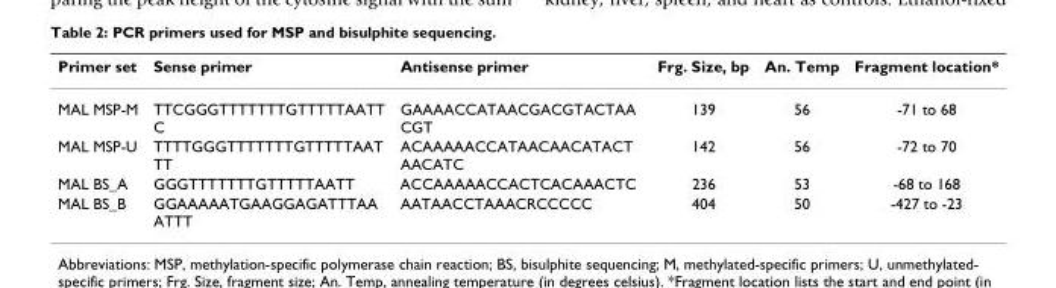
<table><thead><tr><td>Primer set</td><td>Sense primer</td><td>Antisense primer</td><td>Frg. Size, bp</td><td>An. Temp</td><td>Fragment location*</td></tr></thead><tbody><tr><td>MAL MSP-M</td><td>TTCGGGTTTTTTTGTTTTTAATT C</td><td>GAAAACCATAACGACGTACTAA CGT</td><td>139</td><td>56</td><td>-71 to 68</td></tr><tr><td>MAL MSP-U</td><td>TTTTGGGTTTTTTTGTTTTTAAT TT</td><td>ACAAAAACCATAACAACATACT AACATC</td><td>142</td><td>56</td><td>-72 to 70</td></tr><tr><td>MAL BS_A</td><td>GGGTTTTTTTGTTTTTAATT</td><td>ACCAAAAACCACTCACAAACTC</td><td>236</td><td>53</td><td>-68 to 168</td></tr><tr><td>MAL BS_B</td><td>GGAAAAATGAAGGAGATTTAA ATTT</td><td>AATAACCTAAACRCCCCC</td><td>404</td><td>50</td><td>-427 to -23</td></tr></tbody></table>